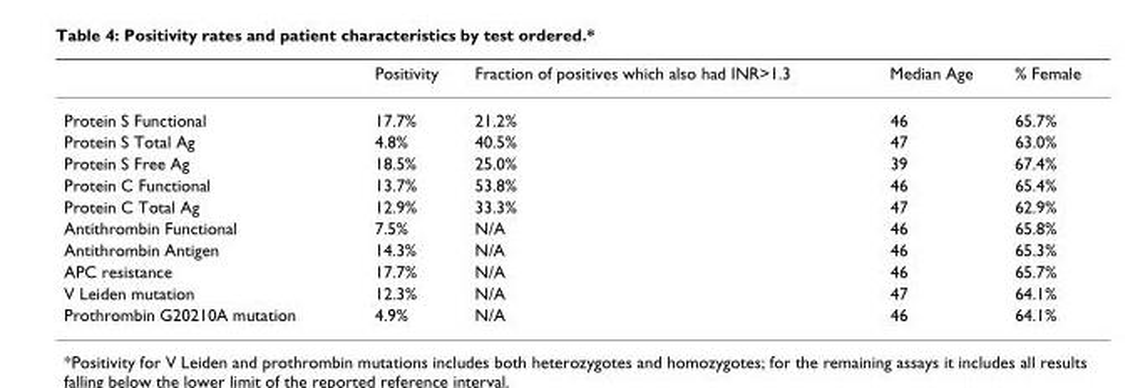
<table><thead><tr><td></td><td>Positivity</td><td>Fraction of positives which also had INR&gt;1.3</td><td>Median Age</td><td>% Female</td></tr></thead><tbody><tr><td>Protein S Functional</td><td>17.7%</td><td>21.2%</td><td>46</td><td>65.7%</td></tr><tr><td>Protein S Total Ag</td><td>4.8%</td><td>40.5%</td><td>47</td><td>63.0%</td></tr><tr><td>Protein S Free Ag</td><td>18.5%</td><td>25.0%</td><td>39</td><td>67.4%</td></tr><tr><td>Protein C Functional</td><td>13.7%</td><td>53.8%</td><td>46</td><td>65.4%</td></tr><tr><td>Protein C Total Ag</td><td>12.9%</td><td>33.3%</td><td>47</td><td>62.9%</td></tr><tr><td>Antithrombin Functional</td><td>7.5%</td><td>N/A</td><td>46</td><td>65.8%</td></tr><tr><td>Antithrombin Antigen</td><td>14.3%</td><td>N/A</td><td>46</td><td>65.3%</td></tr><tr><td>APC resistance</td><td>17.7%</td><td>N/A</td><td>46</td><td>65.7%</td></tr><tr><td>V Leiden mutation</td><td>12.3%</td><td>N/A</td><td>47</td><td>64.1%</td></tr><tr><td>Prothrombin G20210A mutation</td><td>4.9%</td><td>N/A</td><td>46</td><td>64.1%</td></tr></tbody></table>